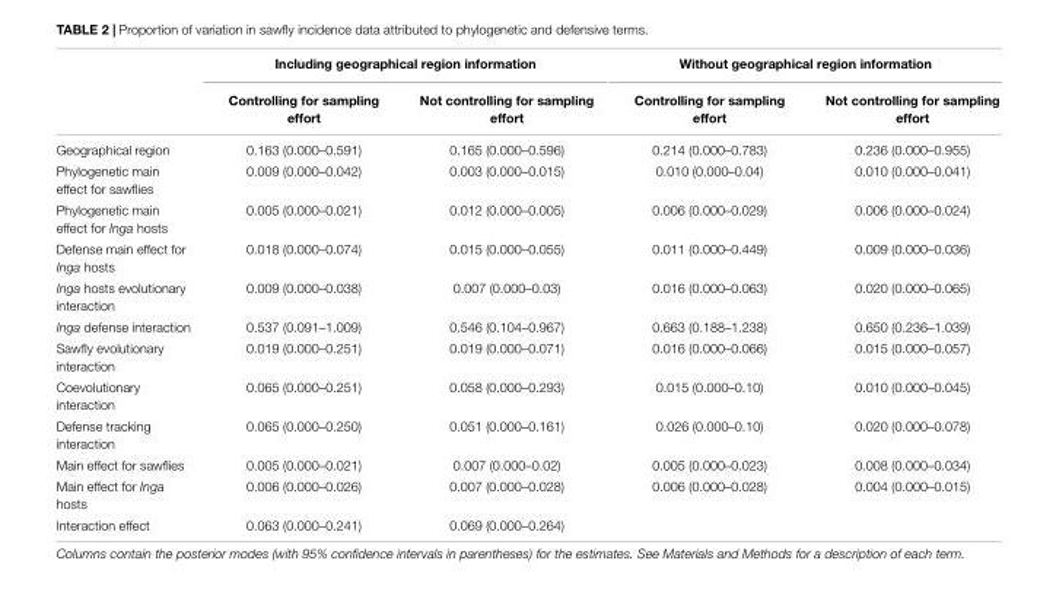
<table><thead><tr><td rowspan="2"></td><td colspan="2">Including geographical region information</td><td colspan="2">Without geographical region information</td></tr><tr><td>Controlling for sampling effort</td><td>Not controlling for sampling effort</td><td>Controlling for sampling effort</td><td>Not controlling for sampling effort</td></tr></thead><tbody><tr><td>Geographical region</td><td>0.163 (0.000–0.591)</td><td>0.165 (0.000–0.596)</td><td>0.214 (0.000–0.783)</td><td>0.236 (0.000–0.955)</td></tr><tr><td>Phylogenetic main effect for sawflies</td><td>0.009 (0.000–0.042)</td><td>0.003 (0.000–0.015)</td><td>0.010 (0.000–0.04)</td><td>0.010 (0.000–0.041)</td></tr><tr><td>Phylogenetic main effect for Inga hosts</td><td>0.005 (0.000–0.021)</td><td>0.012 (0.000–0.005)</td><td>0.006 (0.000–0.029)</td><td>0.006 (0.000–0.024)</td></tr><tr><td>Defense main effect for Inga hosts</td><td>0.018 (0.000–0.074)</td><td>0.015 (0.000–0.055)</td><td>0.011 (0.000–0.449)</td><td>0.009 (0.000–0.036)</td></tr><tr><td>Inga hosts evolutionary interaction</td><td>0.009 (0.000–0.038)</td><td>0.007 (0.000–0.03)</td><td>0.016 (0.000–0.063)</td><td>0.020 (0.000–0.065)</td></tr><tr><td>Inga defense interaction</td><td>0.537 (0.091–1.009)</td><td>0.546 (0.104–0.967)</td><td>0.663 (0.188–1.238)</td><td>0.650 (0.236–1.039)</td></tr><tr><td>Sawfly evolutionary interaction</td><td>0.019 (0.000–0.251)</td><td>0.019 (0.000–0.071)</td><td>0.016 (0.000–0.066)</td><td>0.015 (0.000–0.057)</td></tr><tr><td>Coevolutionary interaction</td><td>0.065 (0.000–0.251)</td><td>0.058 (0.000–0.293)</td><td>0.015 (0.000–0.10)</td><td>0.010 (0.000–0.045)</td></tr><tr><td>Defense tracking interaction</td><td>0.065 (0.000–0.250)</td><td>0.051 (0.000–0.161)</td><td>0.026 (0.000–0.10)</td><td>0.020 (0.000–0.078)</td></tr><tr><td>Main effect for sawflies</td><td>0.005 (0.000–0.021)</td><td>0.007 (0.000–0.02)</td><td>0.005 (0.000–0.023)</td><td>0.008 (0.000–0.034)</td></tr><tr><td>Main effect for Inga hosts</td><td>0.006 (0.000–0.026)</td><td>0.007 (0.000–0.028)</td><td>0.006 (0.000–0.028)</td><td>0.004 (0.000–0.015)</td></tr><tr><td>Interaction effect</td><td>0.063 (0.000–0.241)</td><td>0.069 (0.000–0.264)</td><td></td><td></td></tr></tbody></table>